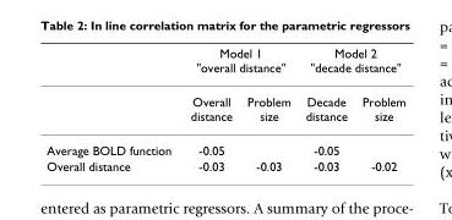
<table><thead><tr><td rowspan="2"></td><td colspan="2">Model 1 &quot;overall distance&quot;</td><td colspan="2">Model 2 &quot;decade distance&quot;</td></tr><tr><td>Overall distance</td><td>Problem size</td><td>Decade distance</td><td>Problem size</td></tr></thead><tbody><tr><td>Average BOLD function</td><td>-0.05</td><td></td><td>-0.05</td><td></td></tr><tr><td>Overall distance</td><td>-0.03</td><td>-0.03</td><td>-0.03</td><td>-0.02</td></tr></tbody></table>